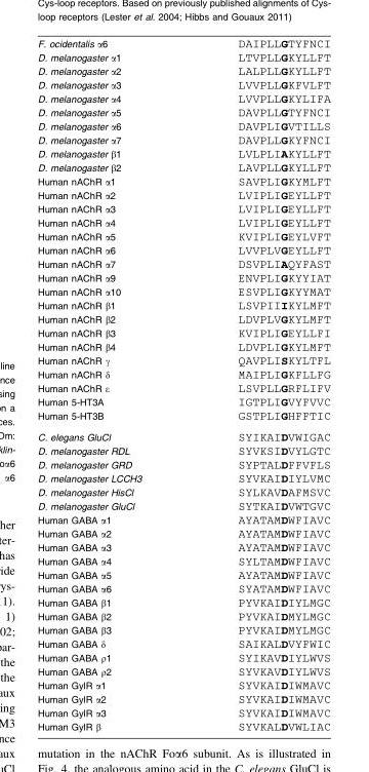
<table><tbody><tr><td>F. ocidentalis α6</td><td>DAIPLLGTYFNCI</td></tr><tr><td>D. melanogaster α1</td><td>LTVPLLGKYLLFT</td></tr><tr><td>D. melanogaster α2</td><td>LALPLLGKYLLFT</td></tr><tr><td>D. melanogaster α3</td><td>LVVPLLGKFVLFT</td></tr><tr><td>D. melanogaster α4</td><td>LVVPLLGKYLIFA</td></tr><tr><td>D. melanogaster α5</td><td>DAVPLLGTYFNCI</td></tr><tr><td>D. melanogaster α6</td><td>DAVPLIGVTILLS</td></tr><tr><td>D. melanogaster α7</td><td>DAVPLLGKYFNCI</td></tr><tr><td>D. melanogaster β1</td><td>LVLPLIAKYLLFT</td></tr><tr><td>D. melanogaster β2</td><td>LAVPLLGKYLLFT</td></tr><tr><td>Human nAChR α1</td><td>SAVPLIGKYMLFT</td></tr><tr><td>Human nAChR α2</td><td>LVIPLIGEYLLFT</td></tr><tr><td>Human nAChR α3</td><td>LVIPLIGEYLLFT</td></tr><tr><td>Human nAChR α4</td><td>LVIPLIGEYLLFT</td></tr><tr><td>Human nAChR α5</td><td>KVIPLIGEYLVFT</td></tr><tr><td>Human nAChR α6</td><td>LVVPLVGEYLLFT</td></tr><tr><td>Human nAChR α7</td><td>DSVPLIAQYFAST</td></tr><tr><td>Human nAChR α9</td><td>ENVPLIGKYYIAT</td></tr><tr><td>Human nAChR α10</td><td>ESVPLIGKYYMAT</td></tr><tr><td>Human nAChR β1</td><td>LSVPIIIKYLMFT</td></tr><tr><td>Human nAChR β2</td><td>LDVPLVGKYLMFT</td></tr><tr><td>Human nAChR β3</td><td>KVIPLIGEYLLFI</td></tr><tr><td>Human nAChR β4</td><td>LDVPLIGKYLMFT</td></tr><tr><td>Human nAChR γ</td><td>QAVPLISKYLTFL</td></tr><tr><td>Human nAChR δ</td><td>MAIPLIGKFLLFG</td></tr><tr><td>Human nAChR ε</td><td>LSVPLLGRFLIFV</td></tr><tr><td>Human 5-HT3A</td><td>IGTPLIGVYFVVC</td></tr><tr><td>Human 5-HT3B</td><td>GSTPLIGHFFTIC</td></tr><tr><td>C. elegans GluCl</td><td>SYIKAIDVWIGAC</td></tr><tr><td>D. melanogaster RDL</td><td>SYVKSIDVYLGTC</td></tr><tr><td>D. melanogaster GRD</td><td>SYPTALDFFVFLS</td></tr><tr><td>D. melanogaster LCCH3</td><td>SYVKAIDIYLVMC</td></tr><tr><td>D. melanogaster HisCl</td><td>SYLKAVDAFMSVC</td></tr><tr><td>D. melanogaster GluCl</td><td>SYTKAIDVWTGVC</td></tr><tr><td>Human GABA α1</td><td>AYATAMDWFIAVC</td></tr><tr><td>Human GABA α2</td><td>AYATAMDWFIAVC</td></tr><tr><td>Human GABA α3</td><td>AYATAMDWFIAVC</td></tr><tr><td>Human GABA α4</td><td>SYLTAMDWFIAVC</td></tr><tr><td>Human GABA α5</td><td>AYATAMDWFIAVC</td></tr><tr><td>Human GABA α6</td><td>SYATAMDWFIAVC</td></tr><tr><td>Human GABA β1</td><td>PYVKAIDIYLMGC</td></tr><tr><td>Human GABA β2</td><td>PYVKAIDMYLMGC</td></tr><tr><td>Human GABA β3</td><td>PYVKAIDMYLMGC</td></tr><tr><td>Human GABA δ</td><td>SAIKALDVYFWIC</td></tr><tr><td>Human GABA ρ1</td><td>SYIKAVDIYLWVS</td></tr><tr><td>Human GABA ρ2</td><td>SYVKAVDIYLWVS</td></tr><tr><td>Human GylR α1</td><td>SYVKAIDIWMAVC</td></tr><tr><td>Human GylR α2</td><td>SYVKAIDIWMAVC</td></tr><tr><td>Human GylR α3</td><td>SYVKAIDIWMAVC</td></tr><tr><td>Human GylR β</td><td>SYVKALDVWLIAC</td></tr></tbody></table>